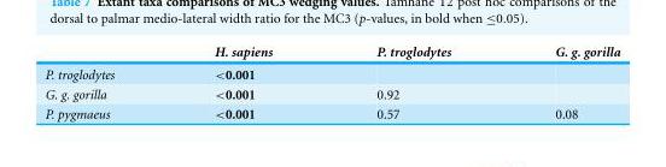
<table><thead><tr><td></td><td>H. sapiens</td><td>P. troglodytes</td><td>G. g. gorilla</td></tr></thead><tbody><tr><td>P. troglodytes</td><td>&lt;0.001</td><td></td><td></td></tr><tr><td>G. g. gorilla</td><td>&lt;0.001</td><td>0.92</td><td></td></tr><tr><td>P. pygmaeus</td><td>&lt;0.001</td><td>0.57</td><td>0.08</td></tr></tbody></table>